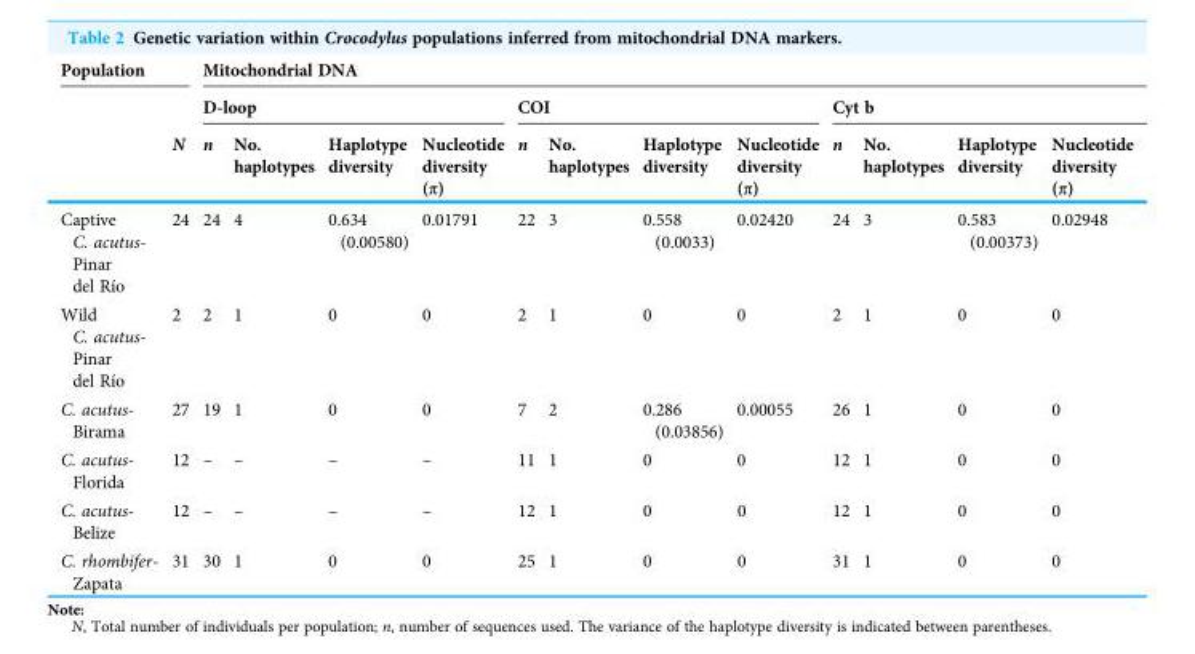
<table><thead><tr><td colspan="2">Population</td><td colspan="12">Mitochondrial DNA</td></tr><tr><td rowspan="2"></td><td rowspan="2">N</td><td colspan="4">D-loop</td><td colspan="4">COI</td><td colspan="4">Cyt b</td></tr><tr><td>n</td><td>No. haplotypes</td><td>Haplotype diversity</td><td>Nucleotide diversity (π)</td><td>n</td><td>No. haplotypes</td><td>Haplotype diversity</td><td>Nucleotide diversity (π)</td><td>n</td><td>No. haplotypes</td><td>Haplotype diversity</td><td>Nucleotide diversity (π)</td></tr></thead><tbody><tr><td>Captive C. acutus- Pinar del Río</td><td>24</td><td>24</td><td>4</td><td>0.634 (0.00580)</td><td>0.01791</td><td>22</td><td>3</td><td>0.558 (0.0033)</td><td>0.02420</td><td>24</td><td>3</td><td>0.583 (0.00373)</td><td>0.02948</td></tr><tr><td>Wild C. acutus- Pinar del Río</td><td>2</td><td>2</td><td>1</td><td>0</td><td>0</td><td>2</td><td>1</td><td>0</td><td>0</td><td>2</td><td>1</td><td>0</td><td>0</td></tr><tr><td>C. acutus- Birama</td><td>27</td><td>19</td><td>1</td><td>0</td><td>0</td><td>7</td><td>2</td><td>0.286 (0.03856)</td><td>0.00055</td><td>26</td><td>1</td><td>0</td><td>0</td></tr><tr><td>C. acutus- Florida</td><td>12</td><td>–</td><td>–</td><td>–</td><td>–</td><td>11</td><td>1</td><td>0</td><td>0</td><td>12</td><td>1</td><td>0</td><td>0</td></tr><tr><td>C. acutus- Belize</td><td>12</td><td>–</td><td>–</td><td>–</td><td>–</td><td>12</td><td>1</td><td>0</td><td>0</td><td>12</td><td>1</td><td>0</td><td>0</td></tr><tr><td>C. rhombifer- Zapata</td><td>31</td><td>30</td><td>1</td><td>0</td><td>0</td><td>25</td><td>1</td><td>0</td><td>0</td><td>31</td><td>1</td><td>0</td><td>0</td></tr></tbody></table>